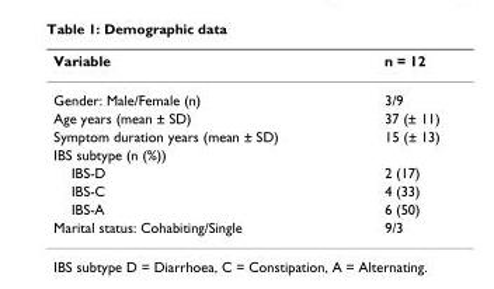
<table><thead><tr><td>Variable</td><td>n = 12</td></tr></thead><tbody><tr><td>Gender: Male/Female (n)</td><td>3/9</td></tr><tr><td>Age years (mean ± SD)</td><td>37 (± 11)</td></tr><tr><td>Symptom duration years (mean ± SD)</td><td>15 (± 13)</td></tr><tr><td colspan="2">IBS subtype (n (%))</td></tr><tr><td>IBS-D</td><td>2 (17)</td></tr><tr><td>IBS-C</td><td>4 (33)</td></tr><tr><td>IBS-A</td><td>6 (50)</td></tr><tr><td>Marital status: Cohabiting/Single</td><td>9/3</td></tr></tbody></table>